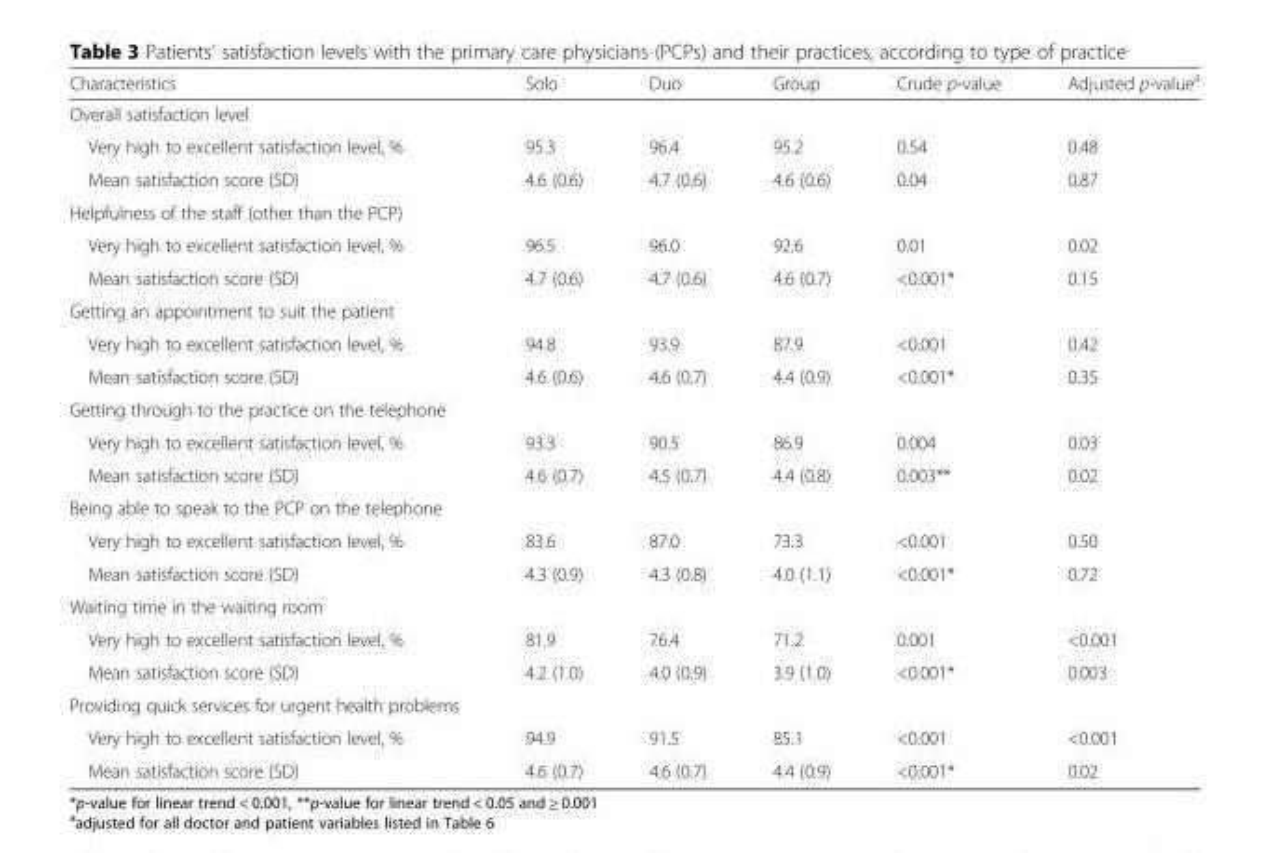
<table><thead><tr><td>Characteristics</td><td>Solo</td><td>Duo</td><td>Group</td><td>Crude p-value</td><td>Adjusted p-value<sup>a</sup></td></tr></thead><tbody><tr><td colspan="6">Overall satisfaction level</td></tr><tr><td>Very high to excellent satisfaction level, %</td><td>95.3</td><td>96.4</td><td>95.2</td><td>0.54</td><td>0.48</td></tr><tr><td>Mean satisfaction score (SD)</td><td>4.6 (0.6)</td><td>4.7 (0.6)</td><td>4.6 (0.6)</td><td>0.04</td><td>0.87</td></tr><tr><td colspan="6">Helpfulness of the staff (other than the PCP)</td></tr><tr><td>Very high to excellent satisfaction level, %</td><td>96.5</td><td>96.0</td><td>92.6</td><td>0.01</td><td>0.02</td></tr><tr><td>Mean satisfaction score (SD)</td><td>4.7 (0.6)</td><td>4.7 (0.6)</td><td>4.6 (0.7)</td><td>&lt;0.001*</td><td>0.15</td></tr><tr><td colspan="6">Getting an appointment to suit the patient</td></tr><tr><td>Very high to excellent satisfaction level, %</td><td>94.8</td><td>93.9</td><td>87.9</td><td>&lt;0.001</td><td>0.42</td></tr><tr><td>Mean satisfaction score (SD)</td><td>4.6 (0.6)</td><td>4.6 (0.7)</td><td>4.4 (0.9)</td><td>&lt;0.001*</td><td>0.35</td></tr><tr><td colspan="6">Getting through to the practice on the telephone</td></tr><tr><td>Very high to excellent satisfaction level, %</td><td>93.3</td><td>90.5</td><td>86.9</td><td>0.004</td><td>0.03</td></tr><tr><td>Mean satisfaction score (SD)</td><td>4.6 (0.7)</td><td>4.5 (0.7)</td><td>4.4 (0.8)</td><td>0.003**</td><td>0.02</td></tr><tr><td colspan="6">Being able to speak to the PCP on the telephone</td></tr><tr><td>Very high to excellent satisfaction level, %</td><td>83.6</td><td>87.0</td><td>73.3</td><td>&lt;0.001</td><td>0.50</td></tr><tr><td>Mean satisfaction score (SD)</td><td>4.3 (0.9)</td><td>4.3 (0.8)</td><td>4.0 (1.1)</td><td>&lt;0.001*</td><td>0.72</td></tr><tr><td colspan="6">Waiting time in the waiting room</td></tr><tr><td>Very high to excellent satisfaction level, %</td><td>81.9</td><td>76.4</td><td>71.2</td><td>0.001</td><td>&lt;0.001</td></tr><tr><td>Mean satisfaction score (SD)</td><td>4.2 (1.0)</td><td>4.0 (0.9)</td><td>3.9 (1.0)</td><td>&lt;0.001*</td><td>0.003</td></tr><tr><td colspan="6">Providing quick services for urgent health problems</td></tr><tr><td>Very high to excellent satisfaction level, %</td><td>94.9</td><td>91.5</td><td>85.1</td><td>&lt;0.001</td><td>&lt;0.001</td></tr><tr><td>Mean satisfaction score (SD)</td><td>4.6 (0.7)</td><td>4.6 (0.7)</td><td>4.4 (0.9)</td><td>&lt;0.001*</td><td>0.02</td></tr></tbody></table>